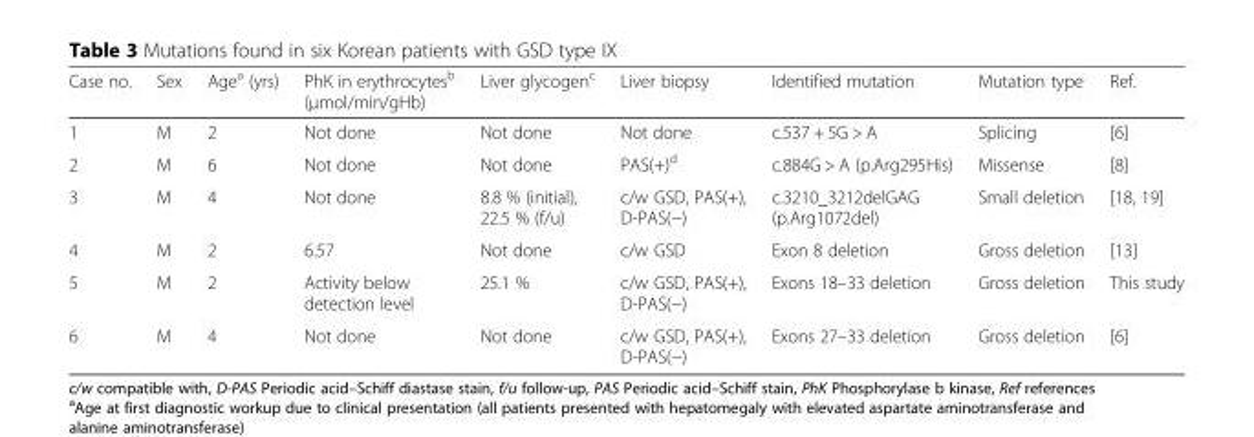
<table><thead><tr><td>Case no.</td><td>Sex</td><td>Age<sup>a</sup> (yrs)</td><td>PhK in erythrocytes<sup>b</sup> (μmol/min/gHb)</td><td>Liver glycogen<sup>c</sup></td><td>Liver biopsy</td><td>Identified mutation</td><td>Mutation type</td><td>Ref.</td></tr></thead><tbody><tr><td>1</td><td>M</td><td>2</td><td>Not done</td><td>Not done</td><td>Not done</td><td>c.537 + 5G &gt; A</td><td>Splicing</td><td>[6]</td></tr><tr><td>2</td><td>M</td><td>6</td><td>Not done</td><td>Not done</td><td>PAS(+)<sup>d</sup></td><td>c.884G &gt; A (p.Arg295His)</td><td>Missense</td><td>[8]</td></tr><tr><td>3</td><td>M</td><td>4</td><td>Not done</td><td>8.8 % (initial), 22.5 % (f/u)</td><td>c/w GSD, PAS(+), D-PAS(−)</td><td>c.3210_3212delGAG (p.Arg1072del)</td><td>Small deletion</td><td>[18, 19]</td></tr><tr><td>4</td><td>M</td><td>2</td><td>6.57</td><td>Not done</td><td>c/w GSD</td><td>Exon 8 deletion</td><td>Gross deletion</td><td>[13]</td></tr><tr><td>5</td><td>M</td><td>2</td><td>Activity below detection level</td><td>25.1 %</td><td>c/w GSD, PAS(+), D-PAS(−)</td><td>Exons 18–33 deletion</td><td>Gross deletion</td><td>This study</td></tr><tr><td>6</td><td>M</td><td>4</td><td>Not done</td><td>Not done</td><td>c/w GSD, PAS(+), D-PAS(−)</td><td>Exons 27–33 deletion</td><td>Gross deletion</td><td>[6]</td></tr></tbody></table>